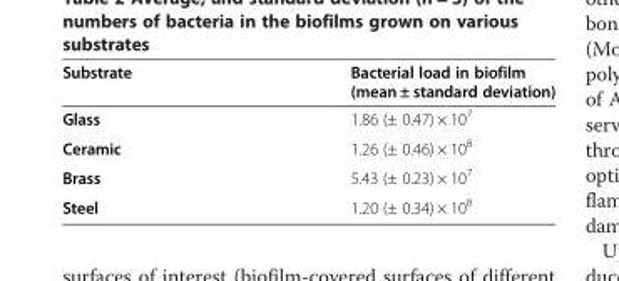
<table><thead><tr><td>Substrate</td><td>Bacterial load in biofilm (mean ± standard deviation)</td></tr></thead><tbody><tr><td>Glass</td><td>1.86 (± 0.47) × 10<sup>7</sup></td></tr><tr><td>Ceramic</td><td>1.26 (± 0.46) × 10<sup>8</sup></td></tr><tr><td>Brass</td><td>5.43 (± 0.23) × 10<sup>7</sup></td></tr><tr><td>Steel</td><td>1.20 (± 0.34) × 10<sup>8</sup></td></tr></tbody></table>